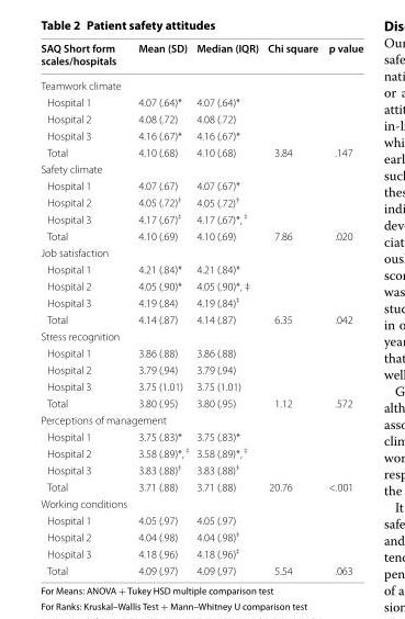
<table><thead><tr><td>SAQ Short form scales/hospitals</td><td>Mean (SD)</td><td>Median (IQR)</td><td>Chi square</td><td>p value</td></tr></thead><tbody><tr><td colspan="5">Teamwork climate</td></tr><tr><td>Hospital 1</td><td>4.07 (.64)*</td><td>4.07 (.64)*</td><td></td><td></td></tr><tr><td>Hospital 2</td><td>4.08 (.72)</td><td>4.08 (.72)</td><td></td><td></td></tr><tr><td>Hospital 3</td><td>4.16 (.67)*</td><td>4.16 (.67)*</td><td></td><td></td></tr><tr><td>Total</td><td>4.10 (.68)</td><td>4.10 (.68)</td><td>3.84</td><td>.147</td></tr><tr><td colspan="5">Safety climate</td></tr><tr><td>Hospital 1</td><td>4.07 (.67)</td><td>4.07 (.67)*</td><td></td><td></td></tr><tr><td>Hospital 2</td><td>4.05 (.72)<sup>‡</sup></td><td>4.05 (.72)<sup>‡</sup></td><td></td><td></td></tr><tr><td>Hospital 3</td><td>4.17 (.67)<sup>‡</sup></td><td>4.17 (.67)*, <sup>‡</sup></td><td></td><td></td></tr><tr><td>Total</td><td>4.10 (.69)</td><td>4.10 (.69)</td><td>7.86</td><td>.020</td></tr><tr><td colspan="5">Job satisfaction</td></tr><tr><td>Hospital 1</td><td>4.21 (.84)*</td><td>4.21 (.84)*</td><td></td><td></td></tr><tr><td>Hospital 2</td><td>4.05 (.90)*</td><td>4.05 (.90)*, ‡</td><td></td><td></td></tr><tr><td>Hospital 3</td><td>4.19 (.84)</td><td>4.19 (.84)<sup>‡</sup></td><td></td><td></td></tr><tr><td>Total</td><td>4.14 (.87)</td><td>4.14 (.87)</td><td>6.35</td><td>.042</td></tr><tr><td colspan="5">Stress recognition</td></tr><tr><td>Hospital 1</td><td>3.86 (.88)</td><td>3.86 (.88)</td><td></td><td></td></tr><tr><td>Hospital 2</td><td>3.79 (.94)</td><td>3.79 (.94)</td><td></td><td></td></tr><tr><td>Hospital 3</td><td>3.75 (1.01)</td><td>3.75 (1.01)</td><td></td><td></td></tr><tr><td>Total</td><td>3.80 (.95)</td><td>3.80 (.95)</td><td>1.12</td><td>.572</td></tr><tr><td colspan="5">Perceptions of management</td></tr><tr><td>Hospital 1</td><td>3.75 (.83)*</td><td>3.75 (.83)*</td><td></td><td></td></tr><tr><td>Hospital 2</td><td>3.58 (.89)*, <sup>‡</sup></td><td>3.58 (.89)*, <sup>‡</sup></td><td></td><td></td></tr><tr><td>Hospital 3</td><td>3.83 (.88)<sup>‡</sup></td><td>3.83 (.88)<sup>‡</sup></td><td></td><td></td></tr><tr><td>Total</td><td>3.71 (.88)</td><td>3.71 (.88)</td><td>20.76</td><td>&lt;.001</td></tr><tr><td colspan="5">Working conditions</td></tr><tr><td>Hospital 1</td><td>4.05 (.97)</td><td>4.05 (.97)</td><td></td><td></td></tr><tr><td>Hospital 2</td><td>4.04 (.98)</td><td>4.04 (.98)<sup>‡</sup></td><td></td><td></td></tr><tr><td>Hospital 3</td><td>4.18 (.96)</td><td>4.18 (.96)<sup>‡</sup></td><td></td><td></td></tr><tr><td>Total</td><td>4.09 (.97)</td><td>4.09 (.97)</td><td>5.54</td><td>.063</td></tr></tbody></table>